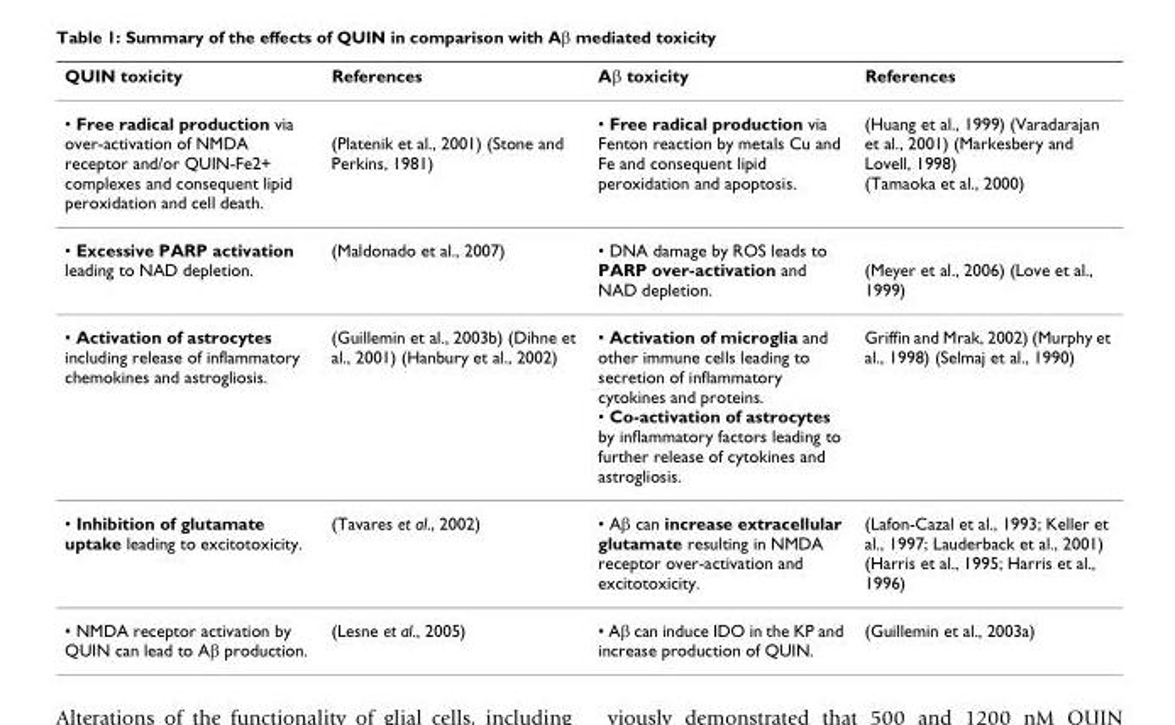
<table><thead><tr><td>QUIN toxicity</td><td>References</td><td>Aβ toxicity</td><td>References</td></tr></thead><tbody><tr><td>• Free radical production via over-activation of NMDA receptor and/or QUIN-Fe2+ complexes and consequent lipid peroxidation and cell death.</td><td>(Platenik et al., 2001) (Stone and Perkins, 1981)</td><td>• Free radical production via Fenton reaction by metals Cu and Fe and consequent lipid peroxidation and apoptosis.</td><td>(Huang et al., 1999) (Varadarajan et al., 2001) (Markesbery and Lovell, 1998) (Tamaoka et al., 2000)</td></tr><tr><td>• Excessive PARP activation leading to NAD depletion.</td><td>(Maldonado et al., 2007)</td><td>• DNA damage by ROS leads to PARP over-activation and NAD depletion.</td><td>(Meyer et al., 2006) (Love et al., 1999)</td></tr><tr><td>• Activation of astrocytes including release of inflammatory chemokines and astrogliosis.</td><td>(Guillemin et al., 2003b) (Dihne et al., 2001) (Hanbury et al., 2002)</td><td>• Activation of microglia and other immune cells leading to secretion of inflammatory cytokines and proteins. • Co-activation of astrocytes by inflammatory factors leading to further release of cytokines and astrogliosis.</td><td>Griffin and Mrak, 2002) (Murphy et al., 1998) (Selmaj et al., 1990)</td></tr><tr><td>• Inhibition of glutamate uptake leading to excitotoxicity.</td><td>(Tavares et al., 2002)</td><td>• Aβ can increase extracellular glutamate resulting in NMDA receptor over-activation and excitotoxicity.</td><td>(Lafon-Cazal et al., 1993; Keller et al., 1997; Lauderback et al., 2001) (Harris et al., 1995; Harris et al., 1996)</td></tr><tr><td>• NMDA receptor activation by QUIN can lead to Aβ production.</td><td>(Lesne et al., 2005)</td><td>• Aβ can induce IDO in the KP and increase production of QUIN.</td><td>(Guillemin et al., 2003a)</td></tr></tbody></table>